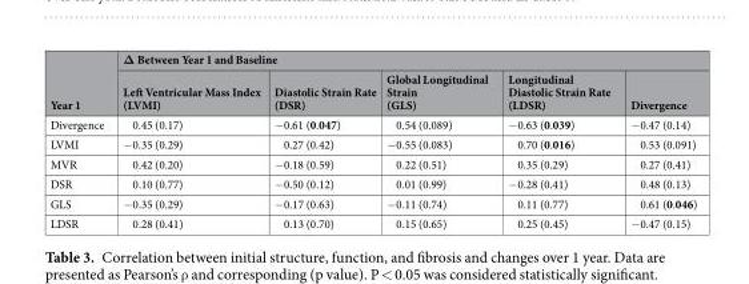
<table><thead><tr><td rowspan="2">Year 1</td><td colspan="5">Δ Between Year 1 and Baseline</td></tr><tr><td>Left Ventricular Mass Index (LVMI)</td><td>Diastolic Strain Rate (DSR)</td><td>Global Longitudinal Strain (GLS)</td><td>Longitudinal Diastolic Strain Rate (LDSR)</td><td>Divergence</td></tr></thead><tbody><tr><td>Divergence</td><td>0.45 (0.17)</td><td>−0.61 (0.047)</td><td>0.54 (0.089)</td><td>−0.63 (0.039)</td><td>−0.47 (0.14)</td></tr><tr><td>LVMI</td><td>−0.35 (0.29)</td><td>0.27 (0.42)</td><td>−0.55 (0.083)</td><td>0.70 (0.016)</td><td>0.53 (0.091)</td></tr><tr><td>MVR</td><td>0.42 (0.20)</td><td>−0.18 (0.59)</td><td>0.22 (0.51)</td><td>0.35 (0.29)</td><td>0.27 (0.41)</td></tr><tr><td>DSR</td><td>0.10 (0.77)</td><td>−0.50 (0.12)</td><td>0.01 (0.99)</td><td>−0.28 (0.41)</td><td>0.48 (0.13)</td></tr><tr><td>GLS</td><td>−0.35 (0.29)</td><td>−0.17 (0.63)</td><td>−0.11 (0.74)</td><td>0.11 (0.77)</td><td>0.61 (0.046)</td></tr><tr><td>LDSR</td><td>0.28 (0.41)</td><td>0.13 (0.70)</td><td>0.15 (0.65)</td><td>0.25 (0.45)</td><td>−0.47 (0.15)</td></tr></tbody></table>